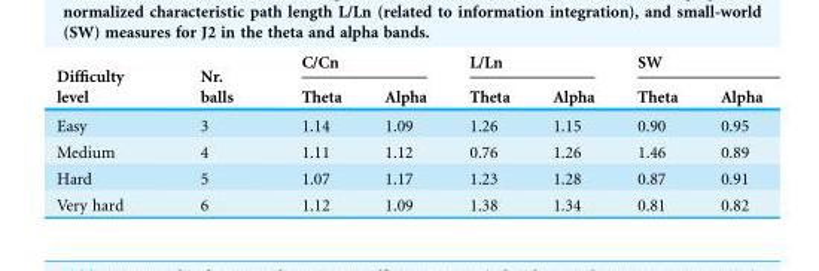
<table><thead><tr><td rowspan="2">Difficulty level</td><td rowspan="2">Nr. balls</td><td colspan="2">C/Cn</td><td colspan="2">L/Ln</td><td colspan="2">SW</td></tr><tr><td>Theta</td><td>Alpha</td><td>Theta</td><td>Alpha</td><td>Theta</td><td>Alpha</td></tr></thead><tbody><tr><td>Easy</td><td>3</td><td>1.14</td><td>1.09</td><td>1.26</td><td>1.15</td><td>0.90</td><td>0.95</td></tr><tr><td>Medium</td><td>4</td><td>1.11</td><td>1.12</td><td>0.76</td><td>1.26</td><td>1.46</td><td>0.89</td></tr><tr><td>Hard</td><td>5</td><td>1.07</td><td>1.17</td><td>1.23</td><td>1.28</td><td>0.87</td><td>0.91</td></tr><tr><td>Very hard</td><td>6</td><td>1.12</td><td>1.09</td><td>1.38</td><td>1.34</td><td>0.81</td><td>0.82</td></tr></tbody></table>